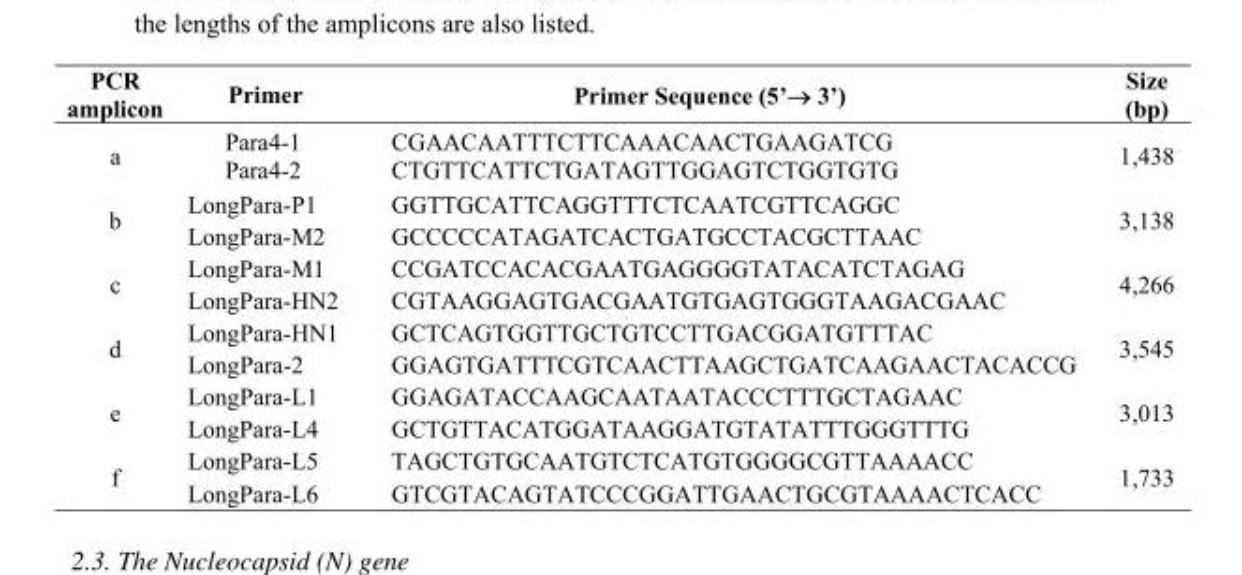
<table><thead><tr><td>PCR amplicon</td><td>Primer</td><td>Primer Sequence (5’→ 3’)</td><td>Size (bp)</td></tr></thead><tbody><tr><td rowspan="2">a</td><td>Para4-1</td><td>CGAACAATTTCTTCAAACAACTGAAGATCG</td><td rowspan="2">1,438</td></tr><tr><td>Para4-2</td><td>CTGTTCATTCTGATAGTTGGAGTCTGGTGTG</td></tr><tr><td rowspan="2">b</td><td>LongPara-P1</td><td>GGTTGCATTCAGGTTTCTCAATCGTTCAGGC</td><td rowspan="2">3,138</td></tr><tr><td>LongPara-M2</td><td>GCCCCCATAGATCACTGATGCCTACGCTTAAC</td></tr><tr><td rowspan="2">c</td><td>LongPara-M1</td><td>CCGATCCACACGAATGAGGGGTATACATCTAGAG</td><td rowspan="2">4,266</td></tr><tr><td>LongPara-HN2</td><td>CGTAAGGAGTGACGAATGTGAGTGGGTAAGACGAAC</td></tr><tr><td rowspan="2">d</td><td>LongPara-HN1</td><td>GCTCAGTGGTTGCTGTCCTTGACGGATGTTTAC</td><td rowspan="2">3,545</td></tr><tr><td>LongPara-2</td><td>GGAGTGATTTCGTCAACTTAAGCTGATCAAGAACTACACCG</td></tr><tr><td rowspan="2">e</td><td>LongPara-L1</td><td>GGAGATACCAAGCAATAATACCCTTTGCTAGAAC</td><td rowspan="2">3,013</td></tr><tr><td>LongPara-L4</td><td>GCTGTTACATGGATAAGGATGTATATTTGGGTTTG</td></tr><tr><td rowspan="2">f</td><td>LongPara-L5</td><td>TAGCTGTGCAATGTCTCATGTGGGGCGTTAAAACC</td><td rowspan="2">1,733</td></tr><tr><td>LongPara-L6</td><td>GTCGTACAGTATCCCGGATTGAACTGCGTAAAACTCACC</td></tr></tbody></table>